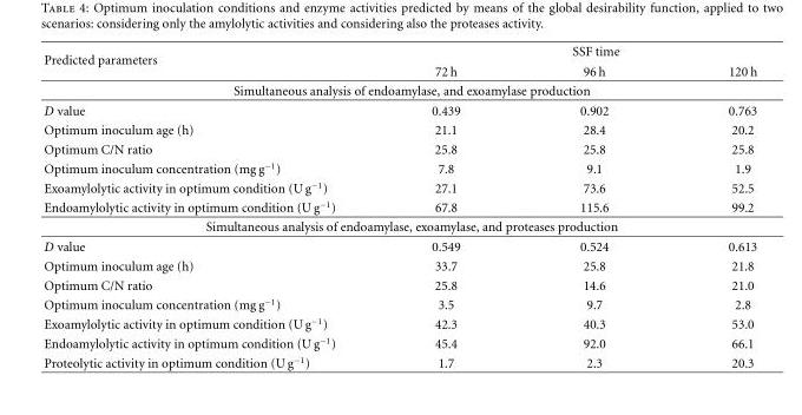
<table><thead><tr><td rowspan="2">Predicted parameters</td><td colspan="3">SSF time</td></tr><tr><td>72 h</td><td>96 h</td><td>120 h</td></tr></thead><tbody><tr><td colspan="4">Simultaneous analysis of endoamylase, and exoamylase production</td></tr><tr><td>D value</td><td>0.439</td><td>0.902</td><td>0.763</td></tr><tr><td>Optimum inoculum age (h)</td><td>21.1</td><td>28.4</td><td>20.2</td></tr><tr><td>Optimum C/N ratio</td><td>25.8</td><td>25.8</td><td>25.8</td></tr><tr><td>Optimum inoculum concentration (mg g<sup>−1</sup>)</td><td>7.8</td><td>9.1</td><td>1.9</td></tr><tr><td>Exoamylolytic activity in optimum condition (U g<sup>−1</sup>)</td><td>27.1</td><td>73.6</td><td>52.5</td></tr><tr><td>Endoamylolytic activity in optimum condition (U g<sup>−1</sup>)</td><td>67.8</td><td>115.6</td><td>99.2</td></tr><tr><td colspan="4">Simultaneous analysis of endoamylase, exoamylase, and proteases production</td></tr><tr><td>D value</td><td>0.549</td><td>0.524</td><td>0.613</td></tr><tr><td>Optimum inoculum age (h)</td><td>33.7</td><td>25.8</td><td>21.8</td></tr><tr><td>Optimum C/N ratio</td><td>25.8</td><td>14.6</td><td>21.0</td></tr><tr><td>Optimum inoculum concentration (mg g<sup>−1</sup>)</td><td>3.5</td><td>9.7</td><td>2.8</td></tr><tr><td>Exoamylolytic activity in optimum condition (U g<sup>−1</sup>)</td><td>42.3</td><td>40.3</td><td>53.0</td></tr><tr><td>Endoamylolytic activity in optimum condition (U g<sup>−1</sup>)</td><td>45.4</td><td>92.0</td><td>66.1</td></tr><tr><td>Proteolytic activity in optimum condition (U g<sup>−1</sup>)</td><td>1.7</td><td>2.3</td><td>20.3</td></tr></tbody></table>